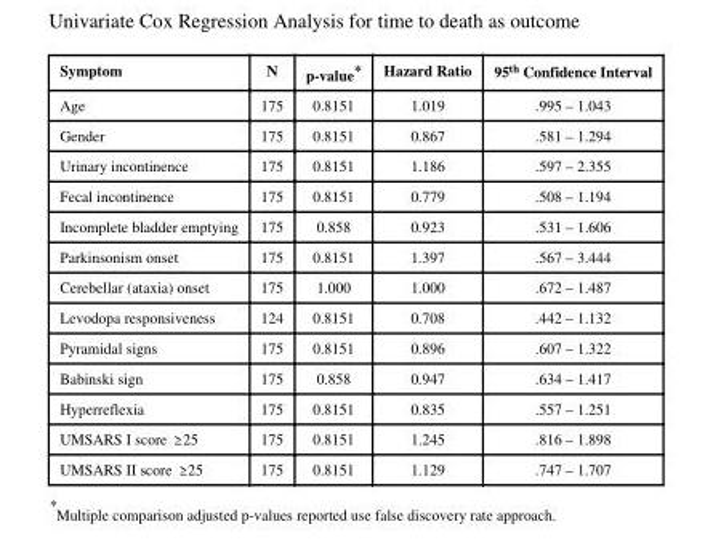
<table><thead><tr><td>Symptom</td><td>N</td><td>p-value*</td><td>Hazard Ratio</td><td>95<sup>th</sup> Confidence Interval</td></tr></thead><tbody><tr><td>Age</td><td>175</td><td>0.8151</td><td>1.019</td><td>.995 – 1.043</td></tr><tr><td>Gender</td><td>175</td><td>0.8151</td><td>0.867</td><td>.581 – 1.294</td></tr><tr><td>Urinary incontinence</td><td>175</td><td>0.8151</td><td>1.186</td><td>.597 – 2.355</td></tr><tr><td>Fecal incontinence</td><td>175</td><td>0.8151</td><td>0.779</td><td>.508 – 1.194</td></tr><tr><td>Incomplete bladder emptying</td><td>175</td><td>0.858</td><td>0.923</td><td>.531 – 1.606</td></tr><tr><td>Parkinsonism onset</td><td>175</td><td>0.8151</td><td>1.397</td><td>.567 – 3.444</td></tr><tr><td>Cerebellar (ataxia) onset</td><td>175</td><td>1.000</td><td>1.000</td><td>.672 – 1.487</td></tr><tr><td>Levodopa responsiveness</td><td>124</td><td>0.8151</td><td>0.708</td><td>.442 – 1.132</td></tr><tr><td>Pyramidal signs</td><td>175</td><td>0.8151</td><td>0.896</td><td>.607 – 1.322</td></tr><tr><td>Babinski sign</td><td>175</td><td>0.858</td><td>0.947</td><td>.634 – 1.417</td></tr><tr><td>Hyperreflexia</td><td>175</td><td>0.8151</td><td>0.835</td><td>.557 – 1.251</td></tr><tr><td>UMSARS I score ≥ 25</td><td>175</td><td>0.8151</td><td>1.245</td><td>.816 – 1.898</td></tr><tr><td>UMSARS II score ≥ 25</td><td>175</td><td>0.8151</td><td>1.129</td><td>.747 – 1.707</td></tr></tbody></table>